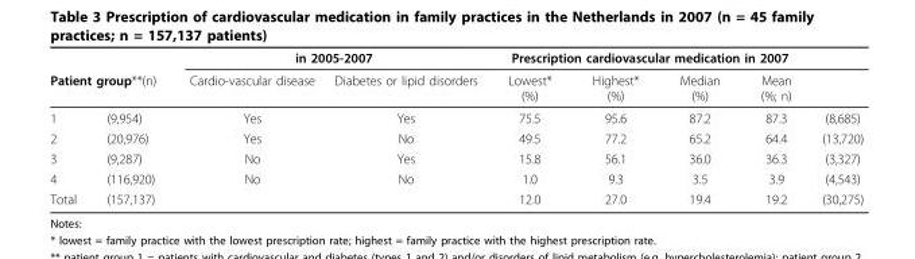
<table><thead><tr><td></td><td></td><td colspan="2">in 2005-2007</td><td colspan="4">Prescription cardiovascular medication in 2007</td><td rowspan="2"></td></tr><tr><td colspan="2">Patient group**(n)</td><td>Cardio-vascular disease</td><td>Diabetes or lipid disorders</td><td>Lowest* (%)</td><td>Highest* (%)</td><td>Median (%)</td><td>Mean (%; n)</td></tr></thead><tbody><tr><td>1</td><td>(9,954)</td><td>Yes</td><td>Yes</td><td>75.5</td><td>95.6</td><td>87.2</td><td>87.3</td><td>(8,685)</td></tr><tr><td>2</td><td>(20,976)</td><td>Yes</td><td>No</td><td>49.5</td><td>77.2</td><td>65.2</td><td>64.4</td><td>(13,720)</td></tr><tr><td>3</td><td>(9,287)</td><td>No</td><td>Yes</td><td>15.8</td><td>56.1</td><td>36.0</td><td>36.3</td><td>(3,327)</td></tr><tr><td>4</td><td>(116,920)</td><td>No</td><td>No</td><td>1.0</td><td>9.3</td><td>3.5</td><td>3.9</td><td>(4,543)</td></tr><tr><td>Total</td><td>(157,137)</td><td></td><td></td><td>12.0</td><td>27.0</td><td>19.4</td><td>19.2</td><td>(30,275)</td></tr></tbody></table>